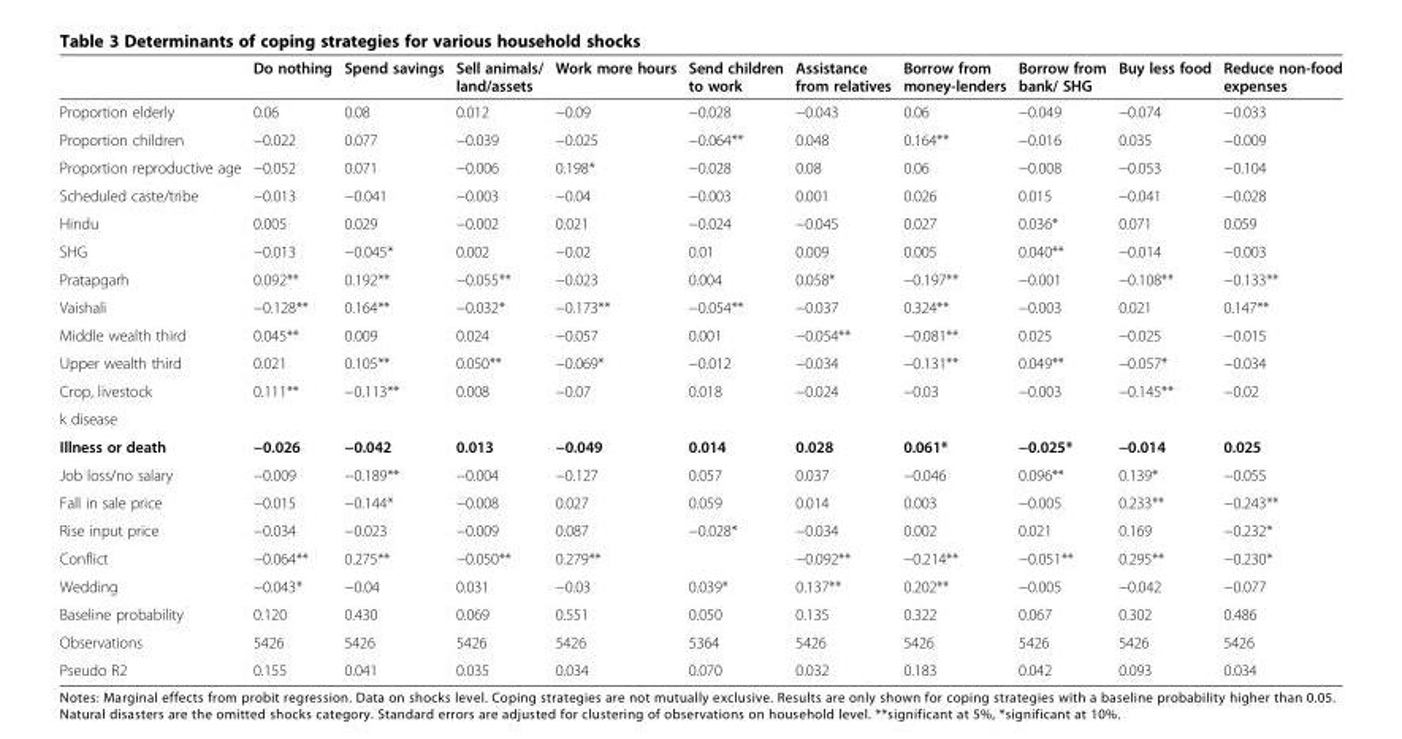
<table><thead><tr><td></td><td>Do nothing</td><td>Spend savings</td><td>Sell animals/ land/assets</td><td>Work more hours</td><td>Send children to work</td><td>Assistance from relatives</td><td>Borrow from money-lenders</td><td>Borrow from bank/ SHG</td><td>Buy less food</td><td>Reduce non-food expenses</td></tr></thead><tbody><tr><td>Proportion elderly</td><td>0.06</td><td>0.08</td><td>0.012</td><td>−0.09</td><td>−0.028</td><td>−0.043</td><td>0.06</td><td>−0.049</td><td>−0.074</td><td>−0.033</td></tr><tr><td>Proportion children</td><td>−0.022</td><td>0.077</td><td>−0.039</td><td>−0.025</td><td>−0.064**</td><td>0.048</td><td>0.164**</td><td>−0.016</td><td>0.035</td><td>−0.009</td></tr><tr><td>Proportion reproductive age</td><td>−0.052</td><td>0.071</td><td>−0.006</td><td>0.198*</td><td>−0.028</td><td>0.08</td><td>0.06</td><td>−0.008</td><td>−0.053</td><td>−0.104</td></tr><tr><td>Scheduled caste/tribe</td><td>−0.013</td><td>−0.041</td><td>−0.003</td><td>−0.04</td><td>−0.003</td><td>0.001</td><td>0.026</td><td>0.015</td><td>−0.041</td><td>−0.028</td></tr><tr><td>Hindu</td><td>0.005</td><td>0.029</td><td>−0.002</td><td>0.021</td><td>−0.024</td><td>−0.045</td><td>0.027</td><td>0.036*</td><td>0.071</td><td>0.059</td></tr><tr><td>SHG</td><td>−0.013</td><td>−0.045*</td><td>0.002</td><td>−0.02</td><td>0.01</td><td>0.009</td><td>0.005</td><td>0.040**</td><td>−0.014</td><td>−0.003</td></tr><tr><td>Pratapgarh</td><td>0.092**</td><td>0.192**</td><td>−0.055**</td><td>−0.023</td><td>0.004</td><td>0.058*</td><td>−0.197**</td><td>−0.001</td><td>−0.108**</td><td>−0.133**</td></tr><tr><td>Vaishali</td><td>−0.128**</td><td>0.164**</td><td>−0.032*</td><td>−0.173**</td><td>−0.054**</td><td>−0.037</td><td>0.324**</td><td>−0.003</td><td>0.021</td><td>0.147**</td></tr><tr><td>Middle wealth third</td><td>0.045**</td><td>0.009</td><td>0.024</td><td>−0.057</td><td>0.001</td><td>−0.054**</td><td>−0.081**</td><td>0.025</td><td>−0.025</td><td>−0.015</td></tr><tr><td>Upper wealth third</td><td>0.021</td><td>0.105**</td><td>0.050**</td><td>−0.069*</td><td>−0.012</td><td>−0.034</td><td>−0.131**</td><td>0.049**</td><td>−0.057*</td><td>−0.034</td></tr><tr><td>Crop, livestock</td><td>0.111**</td><td>−0.113**</td><td>0.008</td><td>−0.07</td><td>0.018</td><td>−0.024</td><td>−0.03</td><td>−0.003</td><td>−0.145**</td><td>−0.02</td></tr><tr><td colspan="11">k disease</td></tr><tr><td>Illness or death</td><td>−0.026</td><td>−0.042</td><td>0.013</td><td>−0.049</td><td>0.014</td><td>0.028</td><td>0.061*</td><td>−0.025*</td><td>−0.014</td><td>0.025</td></tr><tr><td>Job loss/no salary</td><td>−0.009</td><td>−0.189**</td><td>−0.004</td><td>−0.127</td><td>0.057</td><td>0.037</td><td>−0.046</td><td>0.096**</td><td>0.139*</td><td>−0.055</td></tr><tr><td>Fall in sale price</td><td>−0.015</td><td>−0.144*</td><td>−0.008</td><td>0.027</td><td>0.059</td><td>0.014</td><td>0.003</td><td>−0.005</td><td>0.233**</td><td>−0.243**</td></tr><tr><td>Rise input price</td><td>−0.034</td><td>−0.023</td><td>−0.009</td><td>0.087</td><td>−0.028*</td><td>−0.034</td><td>0.002</td><td>0.021</td><td>0.169</td><td>−0.232*</td></tr><tr><td>Conflict</td><td>−0.064**</td><td>0.275**</td><td>−0.050**</td><td>0.279**</td><td></td><td>−0.092**</td><td>−0.214**</td><td>−0.051**</td><td>0.295**</td><td>−0.230*</td></tr><tr><td>Wedding</td><td>−0.043*</td><td>−0.04</td><td>0.031</td><td>−0.03</td><td>0.039*</td><td>0.137**</td><td>0.202**</td><td>−0.005</td><td>−0.042</td><td>−0.077</td></tr><tr><td>Baseline probability</td><td>0.120</td><td>0.430</td><td>0.069</td><td>0.551</td><td>0.050</td><td>0.135</td><td>0.322</td><td>0.067</td><td>0.302</td><td>0.486</td></tr><tr><td>Observations</td><td>5426</td><td>5426</td><td>5426</td><td>5426</td><td>5364</td><td>5426</td><td>5426</td><td>5426</td><td>5426</td><td>5426</td></tr><tr><td>Pseudo R2</td><td>0.155</td><td>0.041</td><td>0.035</td><td>0.034</td><td>0.070</td><td>0.032</td><td>0.183</td><td>0.042</td><td>0.093</td><td>0.034</td></tr></tbody></table>